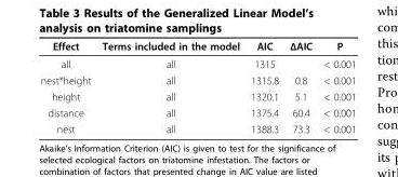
<table><thead><tr><td>Effect</td><td>Terms included in the model</td><td>AIC</td><td>ΔAIC</td><td>P</td></tr></thead><tbody><tr><td>all</td><td>all</td><td>1315</td><td></td><td>&lt; 0.001</td></tr><tr><td>nest*height</td><td>all</td><td>1315.8</td><td>0.8</td><td>&lt; 0.001</td></tr><tr><td>height</td><td>all</td><td>1320.1</td><td>5.1</td><td>&lt; 0.001</td></tr><tr><td>distance</td><td>all</td><td>1375.4</td><td>60.4</td><td>&lt; 0.001</td></tr><tr><td>nest</td><td>all</td><td>1388.3</td><td>73.3</td><td>&lt; 0.001</td></tr></tbody></table>